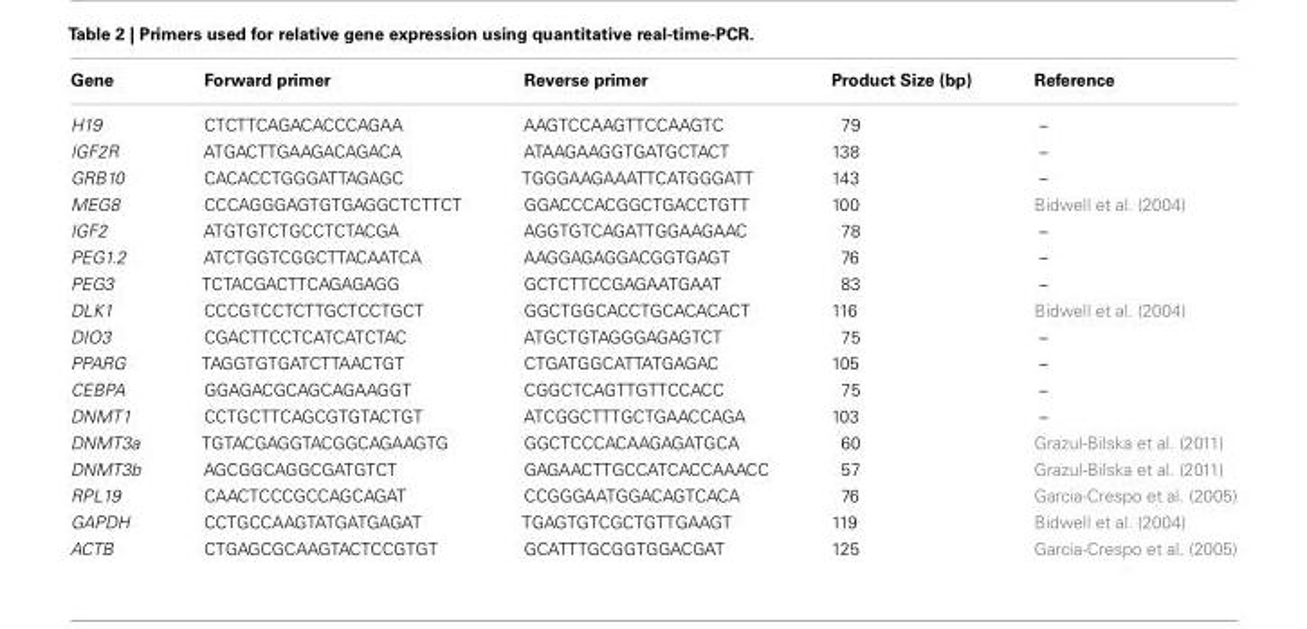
<table><thead><tr><td>Gene</td><td>Forward primer</td><td>Reverse primer</td><td>Product Size (bp)</td><td>Reference</td></tr></thead><tbody><tr><td>H19</td><td>CTCTTCAGACACCCAGAA</td><td>AAGTCCAAGTTCCAAGTC</td><td>79</td><td>–</td></tr><tr><td>IGF2R</td><td>ATGACTTGAAGACAGACA</td><td>ATAAGAAGGTGATGCTACT</td><td>138</td><td>–</td></tr><tr><td>GRB10</td><td>CACACCTGGGATTAGAGC</td><td>TGGGAAGAAATTCATGGGATT</td><td>143</td><td>–</td></tr><tr><td>MEG8</td><td>CCCAGGGAGTGTGAGGCTCTTCT</td><td>GGACCCACGGCTGACCTGTT</td><td>100</td><td>Bidwell et al. (2004)</td></tr><tr><td>IGF2</td><td>ATGTGTCTGCCTCTACGA</td><td>AGGTGTCAGATTGGAAGAAC</td><td>78</td><td>–</td></tr><tr><td>PEG1.2</td><td>ATCTGGTCGGCTTACAATCA</td><td>AAGGAGAGGACGGTGAGT</td><td>76</td><td>–</td></tr><tr><td>PEG3</td><td>TCTACGACTTCAGAGAGG</td><td>GCTCTTCCGAGAATGAAT</td><td>83</td><td>–</td></tr><tr><td>DLK1</td><td>CCCGTCCTCTTGCTCCTGCT</td><td>GGCTGGCACCTGCACACACT</td><td>116</td><td>Bidwell et al. (2004)</td></tr><tr><td>DIO3</td><td>CGACTTCCTCATCATCTAC</td><td>ATGCTGTAGGGAGAGTCT</td><td>75</td><td>–</td></tr><tr><td>PPARG</td><td>TAGGTGTGATCTTAACTGT</td><td>CTGATGGCATTATGAGAC</td><td>105</td><td>–</td></tr><tr><td>CEBPA</td><td>GGAGACGCAGCAGAAGGT</td><td>CGGCTCAGTTGTTCCACC</td><td>75</td><td>–</td></tr><tr><td>DNMT1</td><td>CCTGCTTCAGCGTGTACTGT</td><td>ATCGGCTTTGCTGAACCAGA</td><td>103</td><td>–</td></tr><tr><td>DNMT3a</td><td>TGTACGAGGTACGGCAGAAGTG</td><td>GGCTCCCACAAGAGATGCA</td><td>60</td><td>Grazul-Bilska et al. (2011)</td></tr><tr><td>DNMT3b</td><td>AGCGGCAGGCGATGTCT</td><td>GAGAACTTGCCATCACCAAACC</td><td>57</td><td>Grazul-Bilska et al. (2011)</td></tr><tr><td>RPL19</td><td>CAACTCCCGCCAGCAGAT</td><td>CCGGGAATGGACAGTCACA</td><td>76</td><td>Garcia-Crespo et al. (2005)</td></tr><tr><td>GAPDH</td><td>CCTGCCAAGTATGATGAGAT</td><td>TGAGTGTCGCTGTTGAAGT</td><td>119</td><td>Bidwell et al. (2004)</td></tr><tr><td>ACTB</td><td>CTGAGCGCAAGTACTCCGTGT</td><td>GCATTTGCGGTGGACGAT</td><td>125</td><td>Garcia-Crespo et al. (2005)</td></tr></tbody></table>